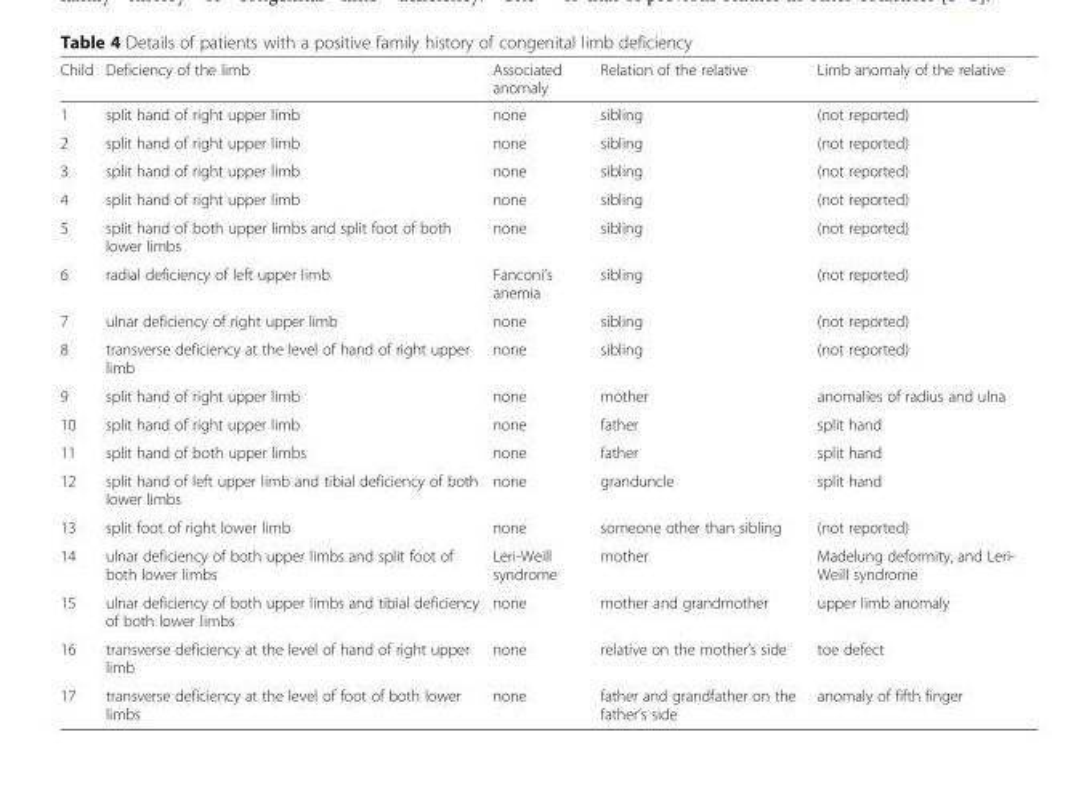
<table><thead><tr><td>Child</td><td>Deficiency of the limb</td><td>Associated anomaly</td><td>Relation of the relative</td><td>Limb anomaly of the relative</td></tr></thead><tbody><tr><td>1</td><td>split hand of right upper limb</td><td>none</td><td>sibling</td><td>(not reported)</td></tr><tr><td>2</td><td>split hand of right upper limb</td><td>none</td><td>sibling</td><td>(not reported)</td></tr><tr><td>3</td><td>split hand of right upper limb</td><td>none</td><td>sibling</td><td>(not reported)</td></tr><tr><td>4</td><td>split hand of right upper limb</td><td>none</td><td>sibling</td><td>(not reported)</td></tr><tr><td>5</td><td>split hand of both upper limbs and split foot of both lower limbs</td><td>none</td><td>sibling</td><td>(not reported)</td></tr><tr><td>6</td><td>radial deficiency of left upper limb</td><td>Fanconi’s anemia</td><td>sibling</td><td>(not reported)</td></tr><tr><td>7</td><td>ulnar deficiency of right upper limb</td><td>none</td><td>sibling</td><td>(not reported)</td></tr><tr><td>8</td><td>transverse deficiency at the level of hand of right upper limb</td><td>none</td><td>sibling</td><td>(not reported)</td></tr><tr><td>9</td><td>split hand of right upper limb</td><td>none</td><td>mother</td><td>anomalies of radius and ulna</td></tr><tr><td>10</td><td>split hand of right upper limb</td><td>none</td><td>father</td><td>split hand</td></tr><tr><td>11</td><td>split hand of both upper limbs</td><td>none</td><td>father</td><td>split hand</td></tr><tr><td>12</td><td>split hand of left upper limb and tibial deficiency of both lower limbs</td><td>none</td><td>granduncle</td><td>split hand</td></tr><tr><td>13</td><td>split foot of right lower limb</td><td>none</td><td>someone other than sibling</td><td>(not reported)</td></tr><tr><td>14</td><td>ulnar deficiency of both upper limbs and split foot of both lower limbs</td><td>Leri-Weill syndrome</td><td>mother</td><td>Madelung deformity, and Leri- Weill syndrome</td></tr><tr><td>15</td><td>ulnar deficiency of both upper limbs and tibial deficiency of both lower limbs</td><td>none</td><td>mother and grandmother</td><td>upper limb anomaly</td></tr><tr><td>16</td><td>transverse deficiency at the level of hand of right upper limb</td><td>none</td><td>relative on the mother’s side</td><td>toe defect</td></tr><tr><td>17</td><td>transverse deficiency at the level of foot of both lower limbs</td><td>none</td><td>father and grandfather on the father’s side</td><td>anomaly of fifth finger</td></tr></tbody></table>